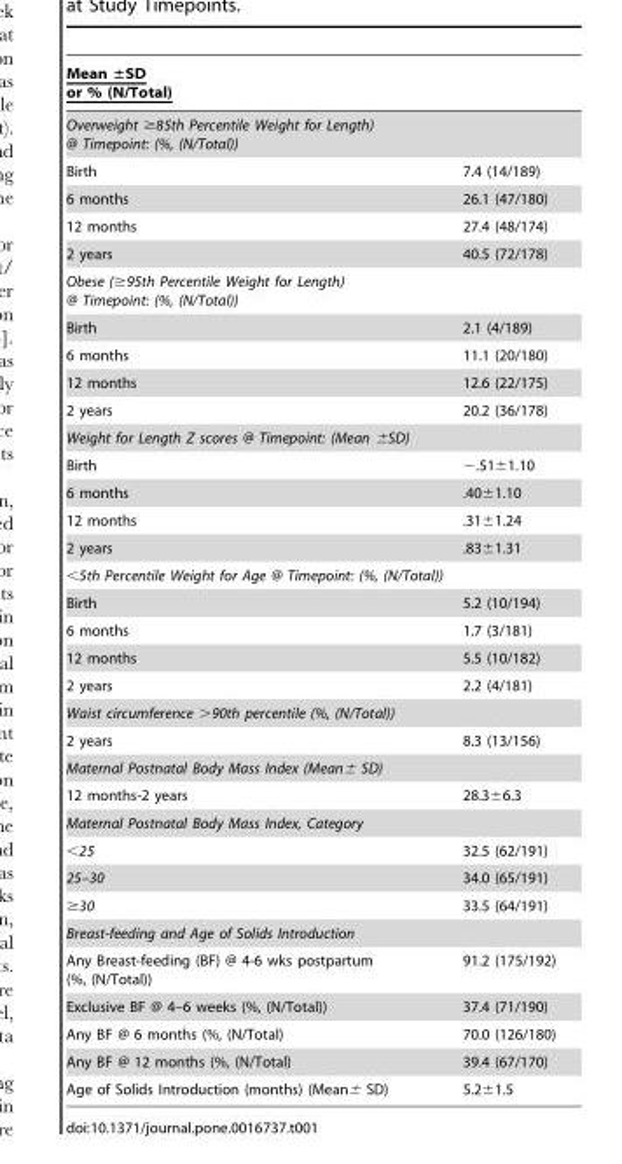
<table><thead><tr><td colspan="2">Mean ±SD or % (N/Total)</td></tr><tr><td>Overweight ≥85th Percentile Weight for Length) @ Timepoint: (%, (N/Total))</td><td></td></tr></thead><tbody><tr><td>Birth</td><td>7.4 (14/189)</td></tr><tr><td>6 months</td><td>26.1 (47/180)</td></tr><tr><td>12 months</td><td>27.4 (48/174)</td></tr><tr><td>2 years</td><td>40.5 (72/178)</td></tr><tr><td colspan="2">Obese (≥95th Percentile Weight for Length) @ Timepoint: (%, (N/Total))</td></tr><tr><td>Birth</td><td>2.1 (4/189)</td></tr><tr><td>6 months</td><td>11.1 (20/180)</td></tr><tr><td>12 months</td><td>12.6 (22/175)</td></tr><tr><td>2 years</td><td>20.2 (36/178)</td></tr><tr><td colspan="2">Weight for Length Z scores @ Timepoint: (Mean ±SD)</td></tr><tr><td>Birth</td><td>−.51±1.10</td></tr><tr><td>6 months</td><td>.40±1.10</td></tr><tr><td>12 months</td><td>.31±1.24</td></tr><tr><td>2 years</td><td>.83±1.31</td></tr><tr><td colspan="2">&lt;5th Percentile Weight for Age @ Timepoint: (%, (N/Total))</td></tr><tr><td>Birth</td><td>5.2 (10/194)</td></tr><tr><td>6 months</td><td>1.7 (3/181)</td></tr><tr><td>12 months</td><td>5.5 (10/182)</td></tr><tr><td>2 years</td><td>2.2 (4/181)</td></tr><tr><td colspan="2">Waist circumference &gt;90th percentile (%, (N/Total))</td></tr><tr><td>2 years</td><td>8.3 (13/156)</td></tr><tr><td colspan="2">Maternal Postnatal Body Mass Index (Mean± SD)</td></tr><tr><td>12 months-2 years</td><td>28.3±6.3</td></tr><tr><td colspan="2">Maternal Postnatal Body Mass Index, Category</td></tr><tr><td>&lt;25</td><td>32.5 (62/191)</td></tr><tr><td>25–30</td><td>34.0 (65/191)</td></tr><tr><td>≥30</td><td>33.5 (64/191)</td></tr><tr><td colspan="2">Breast-feeding and Age of Solids Introduction</td></tr><tr><td>Any Breast-feeding (BF) @ 4-6 wks postpartum (%, (N/Total))</td><td>91.2 (175/192)</td></tr><tr><td>Exclusive BF @ 4–6 weeks (%, (N/Total))</td><td>37.4 (71/190)</td></tr><tr><td>Any BF @ 6 months (%, (N/Total)</td><td>70.0 (126/180)</td></tr><tr><td>Any BF @ 12 months (%, (N/Total)</td><td>39.4 (67/170)</td></tr><tr><td>Age of Solids Introduction (months) (Mean± SD)</td><td>5.2±1.5</td></tr></tbody></table>